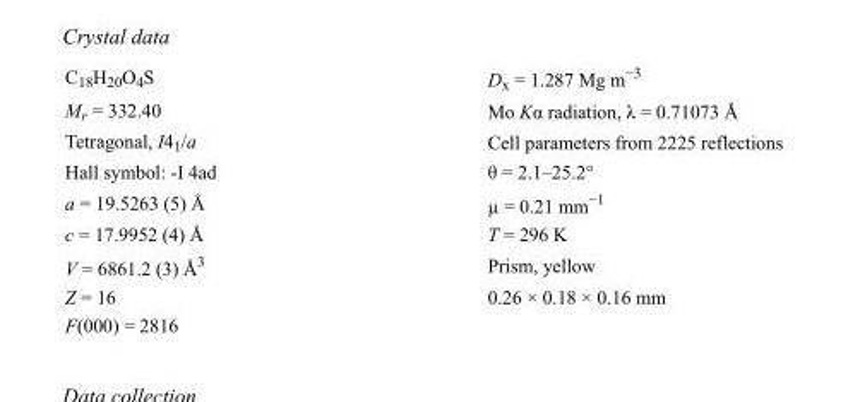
<table><tbody><tr><td>C<sub>18</sub>H<sub>20</sub>O<sub>4</sub>S</td><td>D<sub>x</sub> = 1.287 Mg m<sup>−3</sup></td></tr><tr><td>M<sub>r</sub> = 332.40</td><td>Mo Kα radiation, λ = 0.71073 Å</td></tr><tr><td>Tetragonal, I4<sub>1</sub>/a</td><td>Cell parameters from 2225 reflections</td></tr><tr><td>Hall symbol: -I 4ad</td><td>θ = 2.1–25.2°</td></tr><tr><td>a = 19.5263 (5) Å</td><td>µ = 0.21 mm<sup>−1</sup></td></tr><tr><td>c = 17.9952 (4) Å</td><td>T = 296 K</td></tr><tr><td>V = 6861.2 (3) Å<sup>3</sup></td><td>Prism, yellow</td></tr><tr><td>Z = 16</td><td>0.26 × 0.18 × 0.16 mm</td></tr><tr><td>F(000) = 2816</td><td></td></tr></tbody></table>